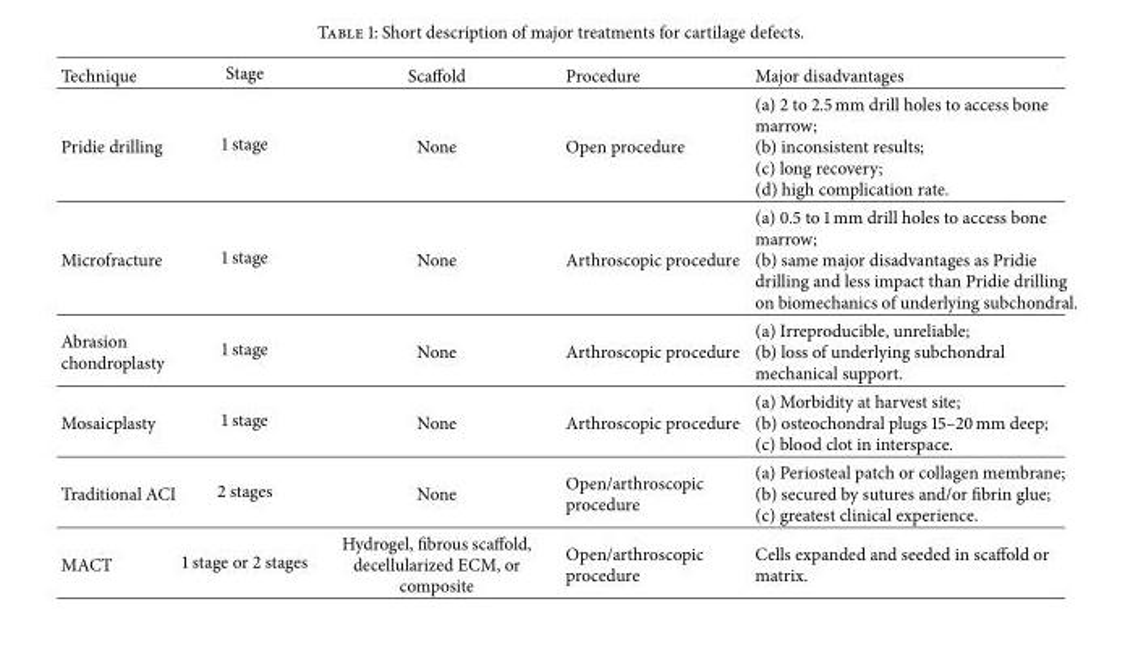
<table><thead><tr><td>Technique</td><td>Stage</td><td>Scaffold</td><td>Procedure</td><td>Major disadvantages</td></tr></thead><tbody><tr><td>Pridie drilling</td><td>1 stage</td><td>None</td><td>Open procedure</td><td>(a) 2 to 2.5 mm drill holes to access bone marrow; (b) inconsistent results; (c) long recovery; (d) high complication rate.</td></tr><tr><td>Microfracture</td><td>1 stage</td><td>None</td><td>Arthroscopic procedure</td><td>(a) 0.5 to 1 mm drill holes to access bone marrow; (b) same major disadvantages as Pridie drilling and less impact than Pridie drilling on biomechanics of underlying subchondral.</td></tr><tr><td>Abrasion chondroplasty</td><td>1 stage</td><td>None</td><td>Arthroscopic procedure</td><td>(a) Irreproducible, unreliable; (b) loss of underlying subchondral mechanical support.</td></tr><tr><td>Mosaicplasty</td><td>1 stage</td><td>None</td><td>Arthroscopic procedure</td><td>(a) Morbidity at harvest site; (b) osteochondral plugs 15–20 mm deep; (c) blood clot in interspace.</td></tr><tr><td>Traditional ACI</td><td>2 stages</td><td>None</td><td>Open/arthroscopic procedure</td><td>(a) Periosteal patch or collagen membrane; (b) secured by sutures and/or fibrin glue; (c) greatest clinical experience.</td></tr><tr><td>MACT</td><td>1 stage or 2 stages</td><td>Hydrogel, fibrous scaffold, decellularized ECM, or composite</td><td>Open/arthroscopic procedure</td><td>Cells expanded and seeded in scaffold or matrix.</td></tr></tbody></table>